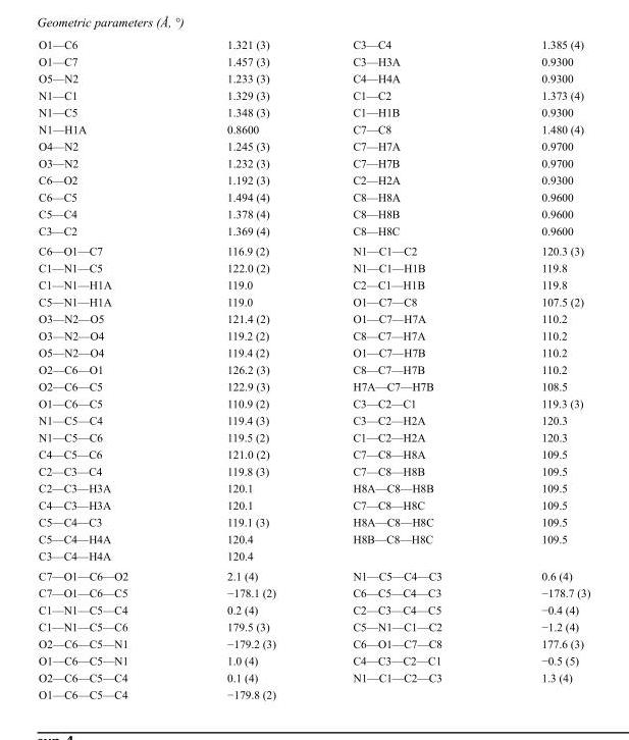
<table><tbody><tr><td>O1—C6</td><td>1.321 (3)</td><td>C3—C4</td><td>1.385 (4)</td></tr><tr><td>O1—C7</td><td>1.457 (3)</td><td>C3—H3A</td><td>0.9300</td></tr><tr><td>O5—N2</td><td>1.233 (3)</td><td>C4—H4A</td><td>0.9300</td></tr><tr><td>N1—C1</td><td>1.329 (3)</td><td>C1—C2</td><td>1.373 (4)</td></tr><tr><td>N1—C5</td><td>1.348 (3)</td><td>C1—H1B</td><td>0.9300</td></tr><tr><td>N1—H1A</td><td>0.8600</td><td>C7—C8</td><td>1.480 (4)</td></tr><tr><td>O4—N2</td><td>1.245 (3)</td><td>C7—H7A</td><td>0.9700</td></tr><tr><td>O3—N2</td><td>1.232 (3)</td><td>C7—H7B</td><td>0.9700</td></tr><tr><td>C6—O2</td><td>1.192 (3)</td><td>C2—H2A</td><td>0.9300</td></tr><tr><td>C6—C5</td><td>1.494 (4)</td><td>C8—H8A</td><td>0.9600</td></tr><tr><td>C5—C4</td><td>1.378 (4)</td><td>C8—H8B</td><td>0.9600</td></tr><tr><td>C3—C2</td><td>1.369 (4)</td><td>C8—H8C</td><td>0.9600</td></tr><tr><td>C6—O1—C7</td><td>116.9 (2)</td><td>N1—C1—C2</td><td>120.3 (3)</td></tr><tr><td>C1—N1—C5</td><td>122.0 (2)</td><td>N1—C1—H1B</td><td>119.8</td></tr><tr><td>C1—N1—H1A</td><td>119.0</td><td>C2—C1—H1B</td><td>119.8</td></tr><tr><td>C5—N1—H1A</td><td>119.0</td><td>O1—C7—C8</td><td>107.5 (2)</td></tr><tr><td>O3—N2—O5</td><td>121.4 (2)</td><td>O1—C7—H7A</td><td>110.2</td></tr><tr><td>O3—N2—O4</td><td>119.2 (2)</td><td>C8—C7—H7A</td><td>110.2</td></tr><tr><td>O5—N2—O4</td><td>119.4 (2)</td><td>O1—C7—H7B</td><td>110.2</td></tr><tr><td>O2—C6—O1</td><td>126.2 (3)</td><td>C8—C7—H7B</td><td>110.2</td></tr><tr><td>O2—C6—C5</td><td>122.9 (3)</td><td>H7A—C7—H7B</td><td>108.5</td></tr><tr><td>O1—C6—C5</td><td>110.9 (2)</td><td>C3—C2—C1</td><td>119.3 (3)</td></tr><tr><td>N1—C5—C4</td><td>119.4 (3)</td><td>C3—C2—H2A</td><td>120.3</td></tr><tr><td>N1—C5—C6</td><td>119.5 (2)</td><td>C1—C2—H2A</td><td>120.3</td></tr><tr><td>C4—C5—C6</td><td>121.0 (2)</td><td>C7—C8—H8A</td><td>109.5</td></tr><tr><td>C2—C3—C4</td><td>119.8 (3)</td><td>C7—C8—H8B</td><td>109.5</td></tr><tr><td>C2—C3—H3A</td><td>120.1</td><td>H8A—C8—H8B</td><td>109.5</td></tr><tr><td>C4—C3—H3A</td><td>120.1</td><td>C7—C8—H8C</td><td>109.5</td></tr><tr><td>C5—C4—C3</td><td>119.1 (3)</td><td>H8A—C8—H8C</td><td>109.5</td></tr><tr><td>C5—C4—H4A</td><td>120.4</td><td>H8B—C8—H8C</td><td>109.5</td></tr><tr><td>C3—C4—H4A</td><td>120.4</td><td></td><td></td></tr><tr><td>C7—O1—C6—O2</td><td>2.1 (4)</td><td>N1—C5—C4—C3</td><td>0.6 (4)</td></tr><tr><td>C7—O1—C6—C5</td><td>−178.1 (2)</td><td>C6—C5—C4—C3</td><td>−178.7 (3)</td></tr><tr><td>C1—N1—C5—C4</td><td>0.2 (4)</td><td>C2—C3—C4—C5</td><td>−0.4 (4)</td></tr><tr><td>C1—N1—C5—C6</td><td>179.5 (3)</td><td>C5—N1—C1—C2</td><td>−1.2 (4)</td></tr><tr><td>O2—C6—C5—N1</td><td>−179.2 (3)</td><td>C6—O1—C7—C8</td><td>177.6 (3)</td></tr><tr><td>O1—C6—C5—N1</td><td>1.0 (4)</td><td>C4—C3—C2—C1</td><td>−0.5 (5)</td></tr><tr><td>O2—C6—C5—C4</td><td>0.1 (4)</td><td>N1—C1—C2—C3</td><td>1.3 (4)</td></tr><tr><td>O1—C6—C5—C4</td><td>−179.8 (2)</td><td></td><td></td></tr></tbody></table>